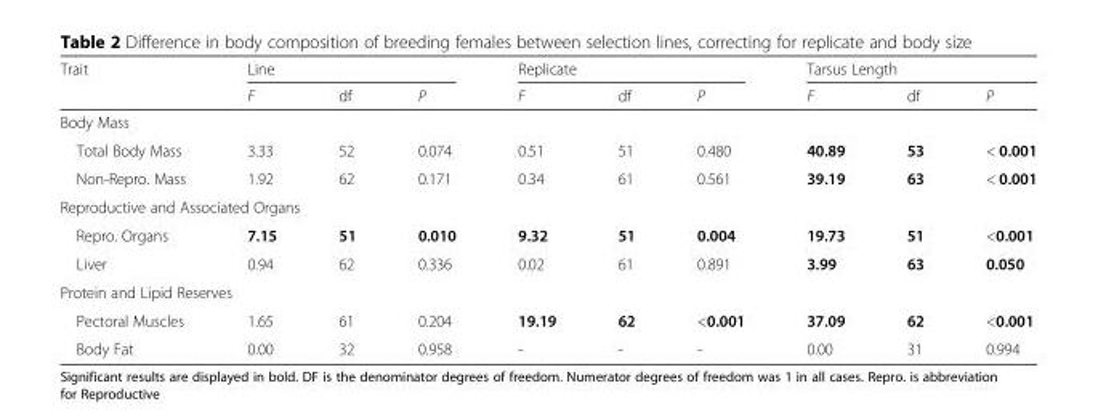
<table><thead><tr><td rowspan="2">Trait</td><td colspan="3">Line</td><td colspan="3">Replicate</td><td colspan="3">Tarsus Length</td></tr><tr><td>F</td><td>df</td><td>P</td><td>F</td><td>df</td><td>P</td><td>F</td><td>df</td><td>P</td></tr></thead><tbody><tr><td colspan="10">Body Mass</td></tr><tr><td>Total Body Mass</td><td>3.33</td><td>52</td><td>0.074</td><td>0.51</td><td>51</td><td>0.480</td><td>40.89</td><td>53</td><td>&lt; 0.001</td></tr><tr><td>Non-Repro. Mass</td><td>1.92</td><td>62</td><td>0.171</td><td>0.34</td><td>61</td><td>0.561</td><td>39.19</td><td>63</td><td>&lt; 0.001</td></tr><tr><td colspan="10">Reproductive and Associated Organs</td></tr><tr><td>Repro. Organs</td><td>7.15</td><td>51</td><td>0.010</td><td>9.32</td><td>51</td><td>0.004</td><td>19.73</td><td>51</td><td>&lt;0.001</td></tr><tr><td>Liver</td><td>0.94</td><td>62</td><td>0.336</td><td>0.02</td><td>61</td><td>0.891</td><td>3.99</td><td>63</td><td>0.050</td></tr><tr><td colspan="10">Protein and Lipid Reserves</td></tr><tr><td>Pectoral Muscles</td><td>1.65</td><td>61</td><td>0.204</td><td>19.19</td><td>62</td><td>&lt;0.001</td><td>37.09</td><td>62</td><td>&lt;0.001</td></tr><tr><td>Body Fat</td><td>0.00</td><td>32</td><td>0.958</td><td>-</td><td>-</td><td>-</td><td>0.00</td><td>31</td><td>0.994</td></tr></tbody></table>